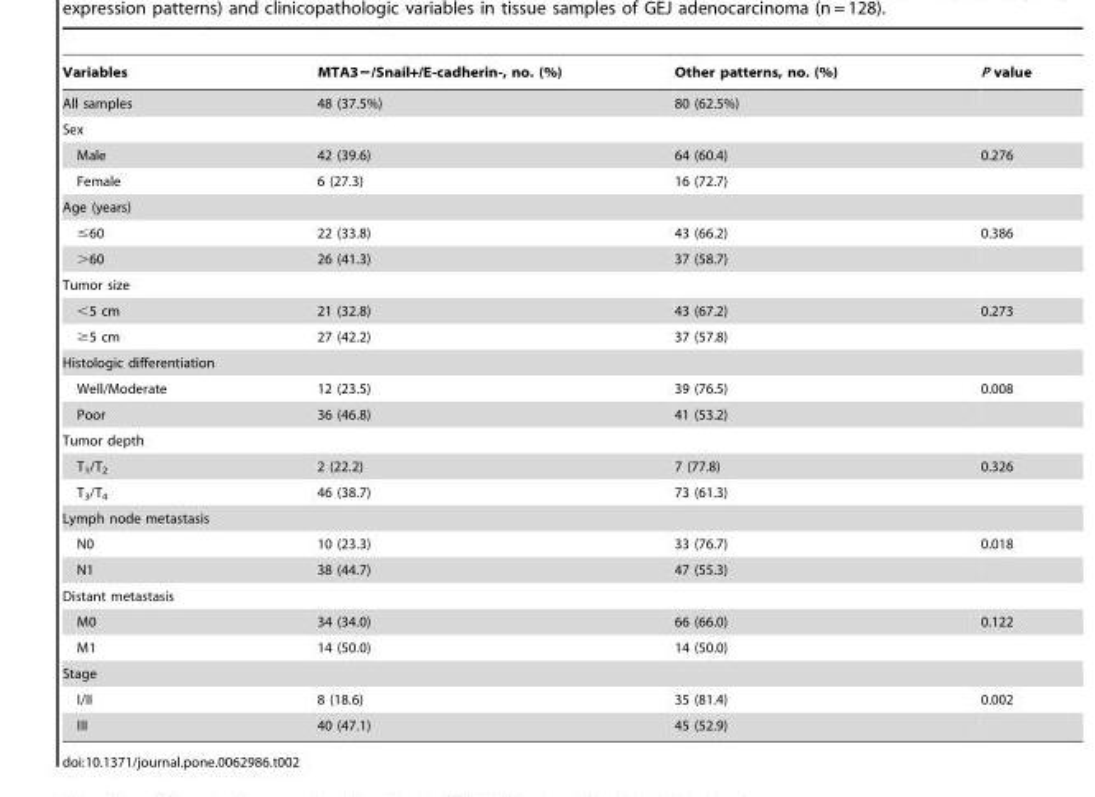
<table><thead><tr><td>Variables</td><td>MTA3−/Snail+/E-cadherin-, no. (%)</td><td>Other patterns, no. (%)</td><td>P value</td></tr></thead><tbody><tr><td>All samples</td><td>48 (37.5%)</td><td>80 (62.5%)</td><td></td></tr><tr><td colspan="4">Sex</td></tr><tr><td>Male</td><td>42 (39.6)</td><td>64 (60.4)</td><td>0.276</td></tr><tr><td>Female</td><td>6 (27.3)</td><td>16 (72.7)</td><td></td></tr><tr><td colspan="4">Age (years)</td></tr><tr><td>≤60</td><td>22 (33.8)</td><td>43 (66.2)</td><td>0.386</td></tr><tr><td>&gt;60</td><td>26 (41.3)</td><td>37 (58.7)</td><td></td></tr><tr><td colspan="4">Tumor size</td></tr><tr><td>&lt;5 cm</td><td>21 (32.8)</td><td>43 (67.2)</td><td>0.273</td></tr><tr><td>≥5 cm</td><td>27 (42.2)</td><td>37 (57.8)</td><td></td></tr><tr><td colspan="4">Histologic differentiation</td></tr><tr><td>Well/Moderate</td><td>12 (23.5)</td><td>39 (76.5)</td><td>0.008</td></tr><tr><td>Poor</td><td>36 (46.8)</td><td>41 (53.2)</td><td></td></tr><tr><td colspan="4">Tumor depth</td></tr><tr><td>T<sub>1</sub>/T<sub>2</sub></td><td>2 (22.2)</td><td>7 (77.8)</td><td>0.326</td></tr><tr><td>T<sub>3</sub>/T<sub>4</sub></td><td>46 (38.7)</td><td>73 (61.3)</td><td></td></tr><tr><td colspan="4">Lymph node metastasis</td></tr><tr><td>N0</td><td>10 (23.3)</td><td>33 (76.7)</td><td>0.018</td></tr><tr><td>N1</td><td>38 (44.7)</td><td>47 (55.3)</td><td></td></tr><tr><td colspan="4">Distant metastasis</td></tr><tr><td>M0</td><td>34 (34.0)</td><td>66 (66.0)</td><td>0.122</td></tr><tr><td>M1</td><td>14 (50.0)</td><td>14 (50.0)</td><td></td></tr><tr><td colspan="4">Stage</td></tr><tr><td>I/II</td><td>8 (18.6)</td><td>35 (81.4)</td><td>0.002</td></tr><tr><td>III</td><td>40 (47.1)</td><td>45 (52.9)</td><td></td></tr></tbody></table>